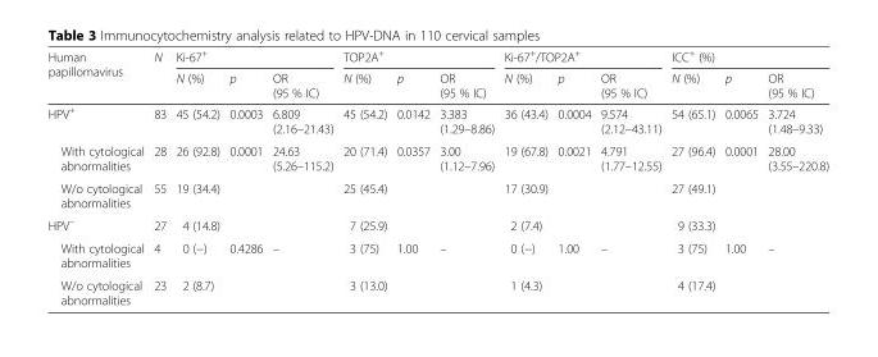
<table><thead><tr><td rowspan="2">Human papillomavirus</td><td rowspan="2">N</td><td colspan="3">Ki-67<sup>+</sup></td><td colspan="3">TOP2A<sup>+</sup></td><td colspan="3">Ki-67<sup>+</sup>/TOP2A<sup>+</sup></td><td colspan="3">ICC<sup>+</sup> (%)</td></tr><tr><td>N (%)</td><td>p</td><td>OR (95 % IC)</td><td>N (%)</td><td>p</td><td>OR (95 % IC)</td><td>N (%)</td><td>p</td><td>OR (95 % IC)</td><td>N (%)</td><td>p</td><td>OR (95 % IC)</td></tr></thead><tbody><tr><td>HPV<sup>+</sup></td><td>83</td><td>45 (54.2)</td><td>0.0003</td><td>6.809 (2.16–21.43)</td><td>45 (54.2)</td><td>0.0142</td><td>3.383 (1.29–8.86)</td><td>36 (43.4)</td><td>0.0004</td><td>9.574 (2.12–43.11)</td><td>54 (65.1)</td><td>0.0065</td><td>3.724 (1.48–9.33)</td></tr><tr><td>With cytological abnormalities</td><td>28</td><td>26 (92.8)</td><td>0.0001</td><td>24.63 (5.26–115.2)</td><td>20 (71.4)</td><td>0.0357</td><td>3.00 (1.12–7.96)</td><td>19 (67.8)</td><td>0.0021</td><td>4.791 (1.77–12.55)</td><td>27 (96.4)</td><td>0.0001</td><td>28.00 (3.55–220.8)</td></tr><tr><td>W/o cytological abnormalities</td><td>55</td><td>19 (34.4)</td><td></td><td></td><td>25 (45.4)</td><td></td><td></td><td>17 (30.9)</td><td></td><td></td><td>27 (49.1)</td><td></td><td></td></tr><tr><td>HPV<sup>−</sup></td><td>27</td><td>4 (14.8)</td><td></td><td></td><td>7 (25.9)</td><td></td><td></td><td>2 (7.4)</td><td></td><td></td><td>9 (33.3)</td><td></td><td></td></tr><tr><td>With cytological abnormalities</td><td>4</td><td>0 (−)</td><td>0.4286</td><td>–</td><td>3 (75)</td><td>1.00</td><td>–</td><td>0 (−)</td><td>1.00</td><td>–</td><td>3 (75)</td><td>1.00</td><td>–</td></tr><tr><td>W/o cytological abnormalities</td><td>23</td><td>2 (8.7)</td><td></td><td></td><td>3 (13.0)</td><td></td><td></td><td>1 (4.3)</td><td></td><td></td><td>4 (17.4)</td><td></td><td></td></tr></tbody></table>